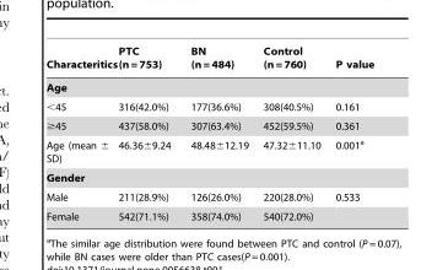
<table><thead><tr><td>Characteritics</td><td>PTC (n = 753)</td><td>BN (n = 484)</td><td>Control (n = 760)</td><td>P value</td></tr></thead><tbody><tr><td colspan="5">Age</td></tr><tr><td>&lt;45</td><td>316(42.0%)</td><td>177(36.6%)</td><td>308(40.5%)</td><td>0.161</td></tr><tr><td>≥45</td><td>437(58.0%)</td><td>307(63.4%)</td><td>452(59.5%)</td><td>0.361</td></tr><tr><td>Age (mean ± SD)</td><td>46.36±9.24</td><td>48.48±12.19</td><td>47.32±11.10</td><td>0.001<sup>a</sup></td></tr><tr><td colspan="5">Gender</td></tr><tr><td>Male</td><td>211(28.9%)</td><td>126(26.0%)</td><td>220(28.0%)</td><td>0.533</td></tr><tr><td>Female</td><td>542(71.1%)</td><td>358(74.0%)</td><td>540(72.0%)</td><td></td></tr></tbody></table>